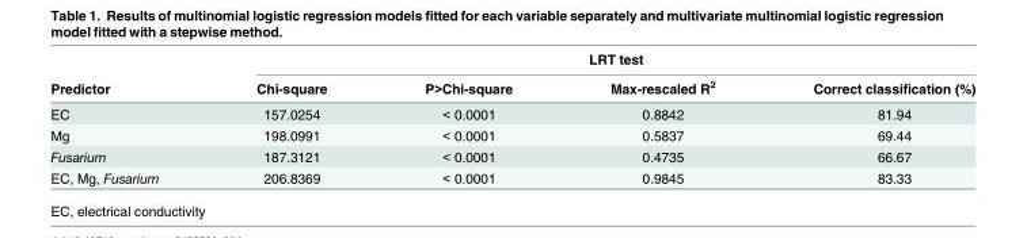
<table><thead><tr><td rowspan="2">Predictor</td><td colspan="4">LRT test</td></tr><tr><td>Chi-square</td><td>P&gt;Chi-square</td><td>Max-rescaled R<sup>2</sup></td><td>Correct classification (%)</td></tr></thead><tbody><tr><td>EC</td><td>157.0254</td><td>&lt; 0.0001</td><td>0.8842</td><td>81.94</td></tr><tr><td>Mg</td><td>198.0991</td><td>&lt; 0.0001</td><td>0.5837</td><td>69.44</td></tr><tr><td>Fusarium</td><td>187.3121</td><td>&lt; 0.0001</td><td>0.4735</td><td>66.67</td></tr><tr><td>EC, Mg, Fusarium</td><td>206.8369</td><td>&lt; 0.0001</td><td>0.9845</td><td>83.33</td></tr></tbody></table>